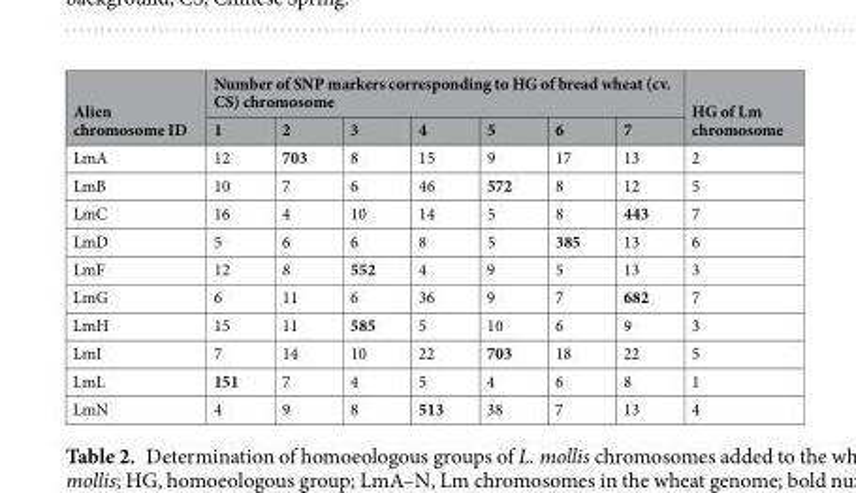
<table><thead><tr><td rowspan="2">Alien chromosome ID</td><td colspan="7">Number of SNP markers corresponding to HG of bread wheat (cv. CS) chromosome</td><td rowspan="2">HG of Lm chromosome</td></tr><tr><td>1</td><td>2</td><td>3</td><td>4</td><td>5</td><td>6</td><td>7</td></tr></thead><tbody><tr><td>LmA</td><td>12</td><td>703</td><td>8</td><td>15</td><td>9</td><td>17</td><td>13</td><td>2</td></tr><tr><td>LmB</td><td>10</td><td>7</td><td>6</td><td>46</td><td>572</td><td>8</td><td>12</td><td>5</td></tr><tr><td>LmC</td><td>16</td><td>4</td><td>10</td><td>14</td><td>5</td><td>8</td><td>443</td><td>7</td></tr><tr><td>LmD</td><td>5</td><td>6</td><td>6</td><td>8</td><td>5</td><td>385</td><td>13</td><td>6</td></tr><tr><td>LmF</td><td>12</td><td>8</td><td>552</td><td>4</td><td>9</td><td>5</td><td>13</td><td>3</td></tr><tr><td>LmG</td><td>6</td><td>11</td><td>6</td><td>36</td><td>9</td><td>7</td><td>682</td><td>7</td></tr><tr><td>LmH</td><td>15</td><td>11</td><td>585</td><td>5</td><td>10</td><td>6</td><td>9</td><td>3</td></tr><tr><td>LmI</td><td>7</td><td>14</td><td>10</td><td>22</td><td>703</td><td>18</td><td>22</td><td>5</td></tr><tr><td>LmL</td><td>151</td><td>7</td><td>4</td><td>5</td><td>4</td><td>6</td><td>8</td><td>1</td></tr><tr><td>LmN</td><td>4</td><td>9</td><td>8</td><td>513</td><td>38</td><td>7</td><td>13</td><td>4</td></tr></tbody></table>